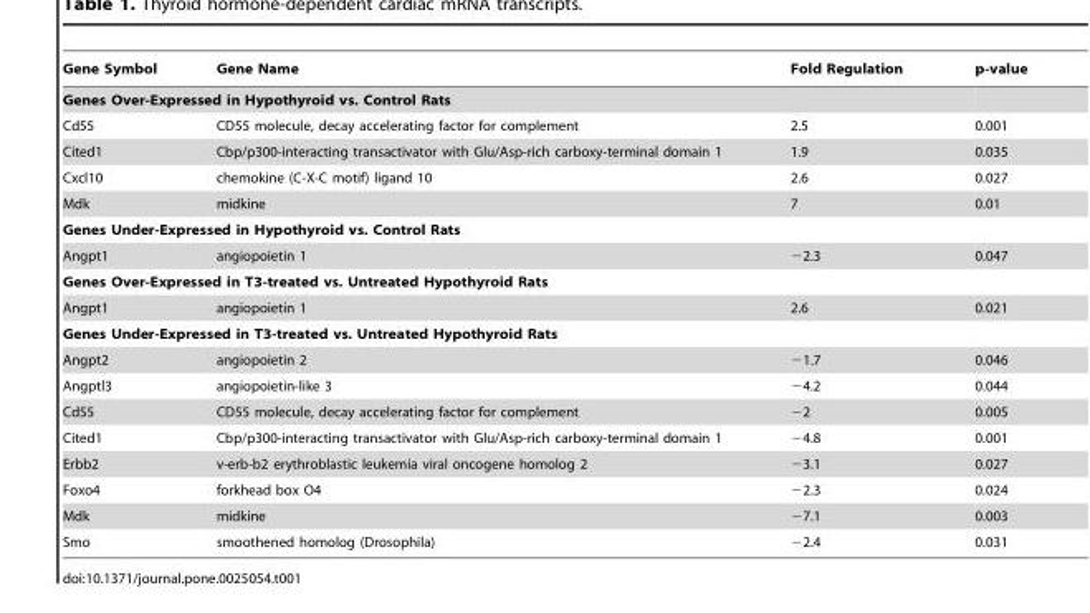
<table><thead><tr><td>Gene Symbol</td><td>Gene Name</td><td>Fold Regulation</td><td>p-value</td></tr></thead><tbody><tr><td colspan="4">Genes Over-Expressed in Hypothyroid vs. Control Rats</td></tr><tr><td>Cd55</td><td>CD55 molecule, decay accelerating factor for complement</td><td>2.5</td><td>0.001</td></tr><tr><td>Cited1</td><td>Cbp/p300-interacting transactivator with Glu/Asp-rich carboxy-terminal domain 1</td><td>1.9</td><td>0.035</td></tr><tr><td>Cxcl10</td><td>chemokine (C-X-C motif) ligand 10</td><td>2.6</td><td>0.027</td></tr><tr><td>Mdk</td><td>midkine</td><td>7</td><td>0.01</td></tr><tr><td colspan="4">Genes Under-Expressed in Hypothyroid vs. Control Rats</td></tr><tr><td>Angpt1</td><td>angiopoietin 1</td><td>−2.3</td><td>0.047</td></tr><tr><td colspan="4">Genes Over-Expressed in T3-treated vs. Untreated Hypothyroid Rats</td></tr><tr><td>Angpt1</td><td>angiopoietin 1</td><td>2.6</td><td>0.021</td></tr><tr><td colspan="4">Genes Under-Expressed in T3-treated vs. Untreated Hypothyroid Rats</td></tr><tr><td>Angpt2</td><td>angiopoietin 2</td><td>−1.7</td><td>0.046</td></tr><tr><td>Angptl3</td><td>angiopoietin-like 3</td><td>−4.2</td><td>0.044</td></tr><tr><td>Cd55</td><td>CD55 molecule, decay accelerating factor for complement</td><td>−2</td><td>0.005</td></tr><tr><td>Cited1</td><td>Cbp/p300-interacting transactivator with Glu/Asp-rich carboxy-terminal domain 1</td><td>−4.8</td><td>0.001</td></tr><tr><td>Erbb2</td><td>v-erb-b2 erythroblastic leukemia viral oncogene homolog 2</td><td>−3.1</td><td>0.027</td></tr><tr><td>Foxo4</td><td>forkhead box O4</td><td>−2.3</td><td>0.024</td></tr><tr><td>Mdk</td><td>midkine</td><td>−7.1</td><td>0.003</td></tr><tr><td>Smo</td><td>smoothened homolog (Drosophila)</td><td>−2.4</td><td>0.031</td></tr></tbody></table>